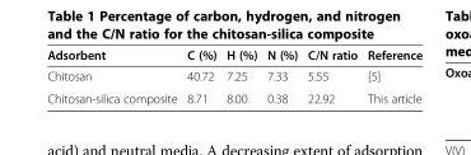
<table><thead><tr><td>Adsorbent</td><td>C (%)</td><td>H (%)</td><td>N (%)</td><td>C/N ratio</td><td>Reference</td></tr></thead><tbody><tr><td>Chitosan</td><td>40.72</td><td>7.25</td><td>7.33</td><td>5.55</td><td>[5]</td></tr><tr><td>Chitosan-silica composite</td><td>8.71</td><td>8.00</td><td>0.38</td><td>22.92</td><td>This article</td></tr></tbody></table>